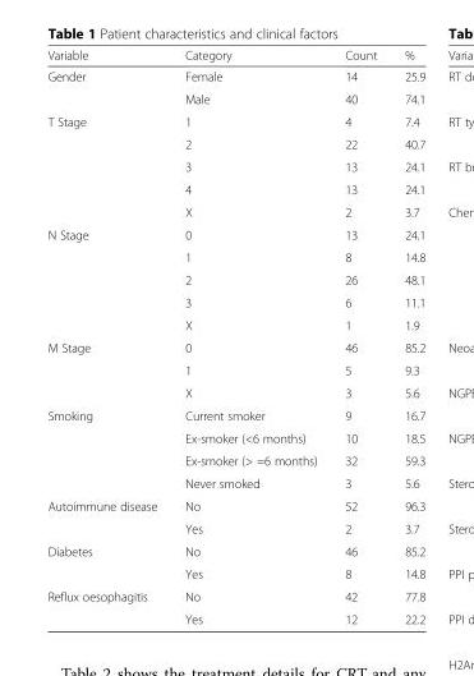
<table><thead><tr><td>Variable</td><td>Category</td><td>Count</td><td>%</td></tr></thead><tbody><tr><td rowspan="2">Gender</td><td>Female</td><td>14</td><td>25.9</td></tr><tr><td>Male</td><td>40</td><td>74.1</td></tr><tr><td rowspan="5">T Stage</td><td>1</td><td>4</td><td>7.4</td></tr><tr><td>2</td><td>22</td><td>40.7</td></tr><tr><td>3</td><td>13</td><td>24.1</td></tr><tr><td>4</td><td>13</td><td>24.1</td></tr><tr><td>X</td><td>2</td><td>3.7</td></tr><tr><td rowspan="5">N Stage</td><td>0</td><td>13</td><td>24.1</td></tr><tr><td>1</td><td>8</td><td>14.8</td></tr><tr><td>2</td><td>26</td><td>48.1</td></tr><tr><td>3</td><td>6</td><td>11.1</td></tr><tr><td>X</td><td>1</td><td>1.9</td></tr><tr><td rowspan="3">M Stage</td><td>0</td><td>46</td><td>85.2</td></tr><tr><td>1</td><td>5</td><td>9.3</td></tr><tr><td>X</td><td>3</td><td>5.6</td></tr><tr><td rowspan="4">Smoking</td><td>Current smoker</td><td>9</td><td>16.7</td></tr><tr><td>Ex-smoker (&lt;6 months)</td><td>10</td><td>18.5</td></tr><tr><td>Ex-smoker (&gt; =6 months)</td><td>32</td><td>59.3</td></tr><tr><td>Never smoked</td><td>3</td><td>5.6</td></tr><tr><td rowspan="2">Autoimmune disease</td><td>No</td><td>52</td><td>96.3</td></tr><tr><td>Yes</td><td>2</td><td>3.7</td></tr><tr><td rowspan="2">Diabetes</td><td>No</td><td>46</td><td>85.2</td></tr><tr><td>Yes</td><td>8</td><td>14.8</td></tr><tr><td rowspan="2">Reflux oesophagitis</td><td>No</td><td>42</td><td>77.8</td></tr><tr><td>Yes</td><td>12</td><td>22.2</td></tr></tbody></table>